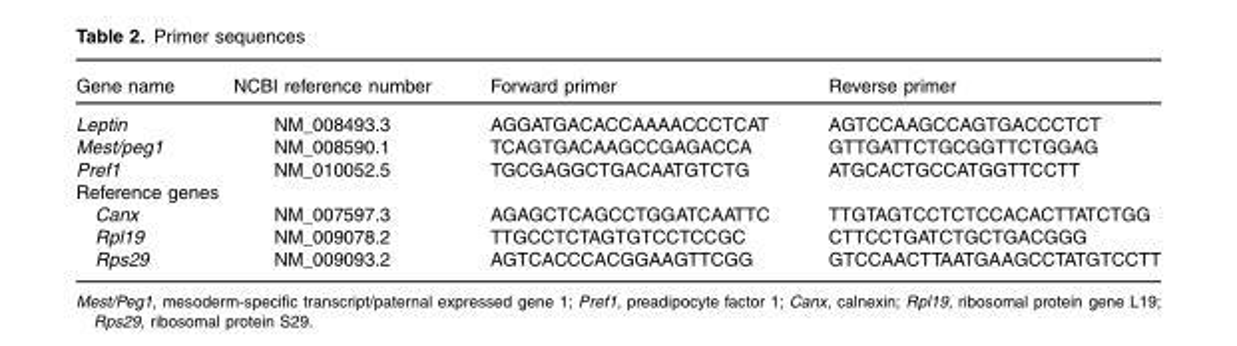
<table><thead><tr><td>Gene name</td><td>NCBI reference number</td><td>Forward primer</td><td>Reverse primer</td></tr></thead><tbody><tr><td>Leptin</td><td>NM_008493.3</td><td>AGGATGACACCAAAACCCTCAT</td><td>AGTCCAAGCCAGTGACCCTCT</td></tr><tr><td>Mest/peg1</td><td>NM_008590.1</td><td>TCAGTGACAAGCCGAGACCA</td><td>GTTGATTCTGCGGTTCTGGAG</td></tr><tr><td>Pref1</td><td>NM_010052.5</td><td>TGCGAGGCTGACAATGTCTG</td><td>ATGCACTGCCATGGTTCCTT</td></tr><tr><td colspan="4">Reference genes</td></tr><tr><td>Canx</td><td>NM_007597.3</td><td>AGAGCTCAGCCTGGATCAATTC</td><td>TTGTAGTCCTCTCCACACTTATCTGG</td></tr><tr><td>Rpl19</td><td>NM_009078.2</td><td>TTGCCTCTAGTGTCCTCCGC</td><td>CTTCCTGATCTGCTGACGGG</td></tr><tr><td>Rps29</td><td>NM_009093.2</td><td>AGTCACCCACGGAAGTTCGG</td><td>GTCCAACTTAATGAAGCCTATGTCCTT</td></tr></tbody></table>